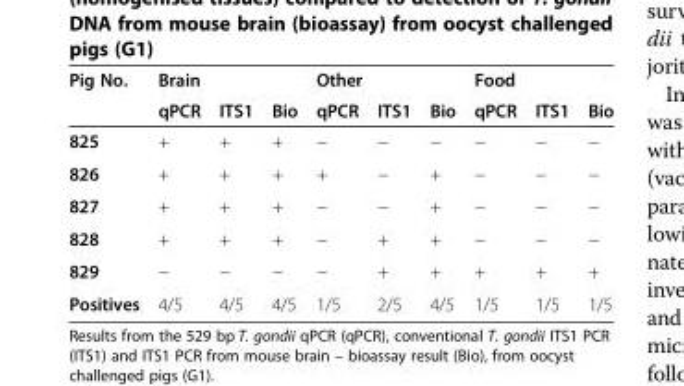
<table><thead><tr><td rowspan="2">Pig No.</td><td colspan="3">Brain</td><td colspan="3">Other</td><td colspan="3">Food</td></tr><tr><td>qPCR</td><td>ITS1</td><td>Bio</td><td>qPCR</td><td>ITS1</td><td>Bio</td><td>qPCR</td><td>ITS1</td><td>Bio</td></tr></thead><tbody><tr><td>825</td><td>+</td><td>+</td><td>+</td><td>−</td><td>−</td><td>−</td><td>−</td><td>−</td><td>−</td></tr><tr><td>826</td><td>+</td><td>+</td><td>+</td><td>+</td><td>−</td><td>+</td><td>−</td><td>−</td><td>−</td></tr><tr><td>827</td><td>+</td><td>+</td><td>+</td><td>−</td><td>−</td><td>+</td><td>−</td><td>−</td><td>−</td></tr><tr><td>828</td><td>+</td><td>+</td><td>+</td><td>−</td><td>+</td><td>+</td><td>−</td><td>−</td><td>−</td></tr><tr><td>829</td><td>−</td><td>−</td><td>−</td><td>−</td><td>+</td><td>+</td><td>+</td><td>+</td><td>+</td></tr><tr><td>Positives</td><td>4/5</td><td>4/5</td><td>4/5</td><td>1/5</td><td>2/5</td><td>4/5</td><td>1/5</td><td>1/5</td><td>1/5</td></tr></tbody></table>